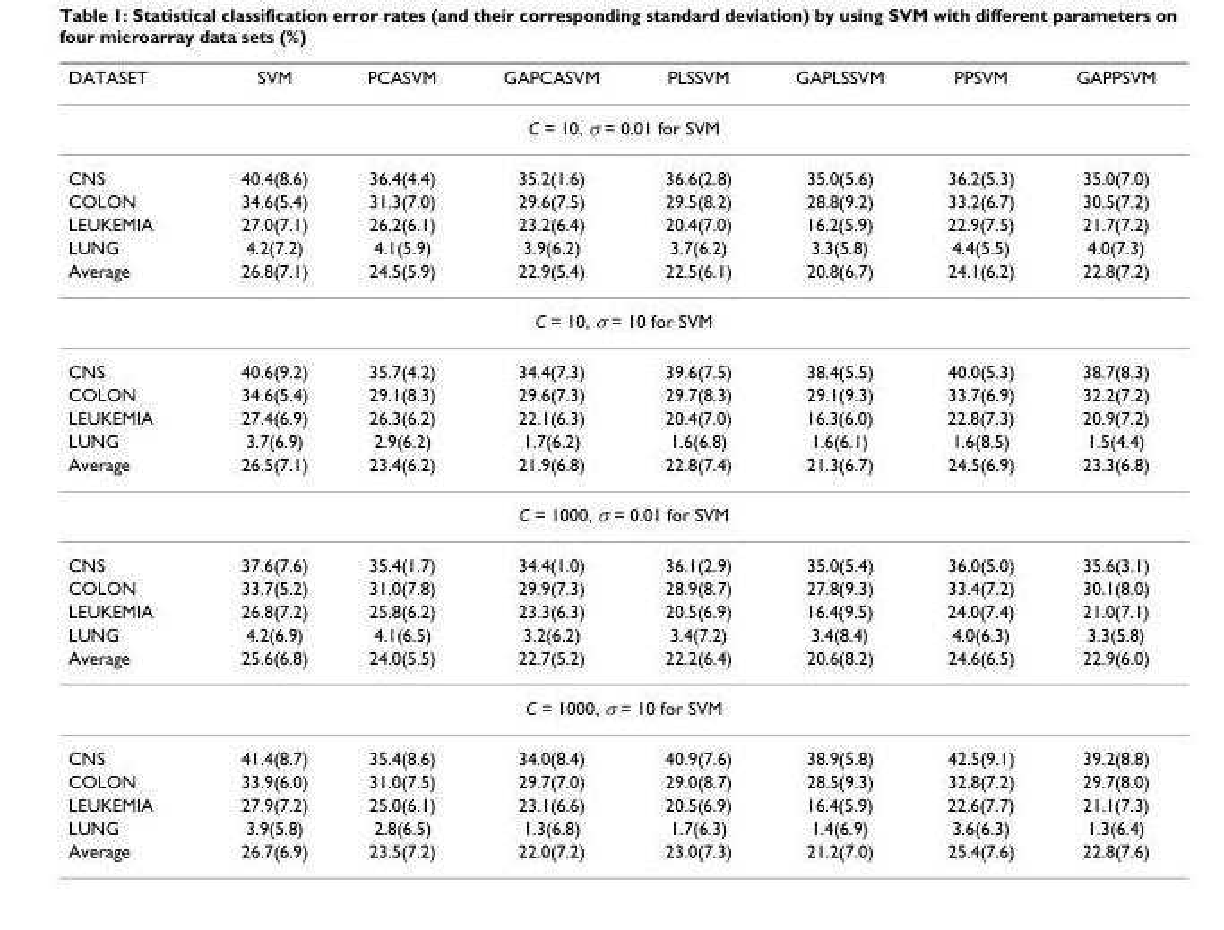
<table><thead><tr><td>DATASET</td><td>SVM</td><td>PCASVM</td><td>GAPCASVM</td><td>PLSSVM</td><td>GAPLSSVM</td><td>PPSVM</td><td>GAPPSVM</td></tr></thead><tbody><tr><td colspan="8">C = 10, σ = 0.01 for SVM</td></tr><tr><td>CNS</td><td>40.4(8.6)</td><td>36.4(4.4)</td><td>35.2(1.6)</td><td>36.6(2.8)</td><td>35.0(5.6)</td><td>36.2(5.3)</td><td>35.0(7.0)</td></tr><tr><td>COLON</td><td>34.6(5.4)</td><td>31.3(7.0)</td><td>29.6(7.5)</td><td>29.5(8.2)</td><td>28.8(9.2)</td><td>33.2(6.7)</td><td>30.5(7.2)</td></tr><tr><td>LEUKEMIA</td><td>27.0(7.1)</td><td>26.2(6.1)</td><td>23.2(6.4)</td><td>20.4(7.0)</td><td>16.2(5.9)</td><td>22.9(7.5)</td><td>21.7(7.2)</td></tr><tr><td>LUNG</td><td>4.2(7.2)</td><td>4.1(5.9)</td><td>3.9(6.2)</td><td>3.7(6.2)</td><td>3.3(5.8)</td><td>4.4(5.5)</td><td>4.0(7.3)</td></tr><tr><td>Average</td><td>26.8(7.1)</td><td>24.5(5.9)</td><td>22.9(5.4)</td><td>22.5(6.1)</td><td>20.8(6.7)</td><td>24.1(6.2)</td><td>22.8(7.2)</td></tr><tr><td colspan="8">C = 10, σ = 10 for SVM</td></tr><tr><td>CNS</td><td>40.6(9.2)</td><td>35.7(4.2)</td><td>34.4(7.3)</td><td>39.6(7.5)</td><td>38.4(5.5)</td><td>40.0(5.3)</td><td>38.7(8.3)</td></tr><tr><td>COLON</td><td>34.6(5.4)</td><td>29.1(8.3)</td><td>29.6(7.3)</td><td>29.7(8.3)</td><td>29.1(9.3)</td><td>33.7(6.9)</td><td>32.2(7.2)</td></tr><tr><td>LEUKEMIA</td><td>27.4(6.9)</td><td>26.3(6.2)</td><td>22.1(6.3)</td><td>20.4(7.0)</td><td>16.3(6.0)</td><td>22.8(7.3)</td><td>20.9(7.2)</td></tr><tr><td>LUNG</td><td>3.7(6.9)</td><td>2.9(6.2)</td><td>1.7(6.2)</td><td>1.6(6.8)</td><td>1.6(6.1)</td><td>1.6(8.5)</td><td>1.5(4.4)</td></tr><tr><td>Average</td><td>26.5(7.1)</td><td>23.4(6.2)</td><td>21.9(6.8)</td><td>22.8(7.4)</td><td>21.3(6.7)</td><td>24.5(6.9)</td><td>23.3(6.8)</td></tr><tr><td colspan="8">C = 1000, σ = 0.01 for SVM</td></tr><tr><td>CNS</td><td>37.6(7.6)</td><td>35.4(1.7)</td><td>34.4(1.0)</td><td>36.1(2.9)</td><td>35.0(5.4)</td><td>36.0(5.0)</td><td>35.6(3.1)</td></tr><tr><td>COLON</td><td>33.7(5.2)</td><td>31.0(7.8)</td><td>29.9(7.3)</td><td>28.9(8.7)</td><td>27.8(9.3)</td><td>33.4(7.2)</td><td>30.1(8.0)</td></tr><tr><td>LEUKEMIA</td><td>26.8(7.2)</td><td>25.8(6.2)</td><td>23.3(6.3)</td><td>20.5(6.9)</td><td>16.4(9.5)</td><td>24.0(7.4)</td><td>21.0(7.1)</td></tr><tr><td>LUNG</td><td>4.2(6.9)</td><td>4.1(6.5)</td><td>3.2(6.2)</td><td>3.4(7.2)</td><td>3.4(8.4)</td><td>4.0(6.3)</td><td>3.3(5.8)</td></tr><tr><td>Average</td><td>25.6(6.8)</td><td>24.0(5.5)</td><td>22.7(5.2)</td><td>22.2(6.4)</td><td>20.6(8.2)</td><td>24.6(6.5)</td><td>22.9(6.0)</td></tr><tr><td colspan="8">C = 1000, σ = 10 for SVM</td></tr><tr><td>CNS</td><td>41.4(8.7)</td><td>35.4(8.6)</td><td>34.0(8.4)</td><td>40.9(7.6)</td><td>38.9(5.8)</td><td>42.5(9.1)</td><td>39.2(8.8)</td></tr><tr><td>COLON</td><td>33.9(6.0)</td><td>31.0(7.5)</td><td>29.7(7.0)</td><td>29.0(8.7)</td><td>28.5(9.3)</td><td>32.8(7.2)</td><td>29.7(8.0)</td></tr><tr><td>LEUKEMIA</td><td>27.9(7.2)</td><td>25.0(6.1)</td><td>23.1(6.6)</td><td>20.5(6.9)</td><td>16.4(5.9)</td><td>22.6(7.7)</td><td>21.1(7.3)</td></tr><tr><td>LUNG</td><td>3.9(5.8)</td><td>2.8(6.5)</td><td>1.3(6.8)</td><td>1.7(6.3)</td><td>1.4(6.9)</td><td>3.6(6.3)</td><td>1.3(6.4)</td></tr><tr><td>Average</td><td>26.7(6.9)</td><td>23.5(7.2)</td><td>22.0(7.2)</td><td>23.0(7.3)</td><td>21.2(7.0)</td><td>25.4(7.6)</td><td>22.8(7.6)</td></tr></tbody></table>